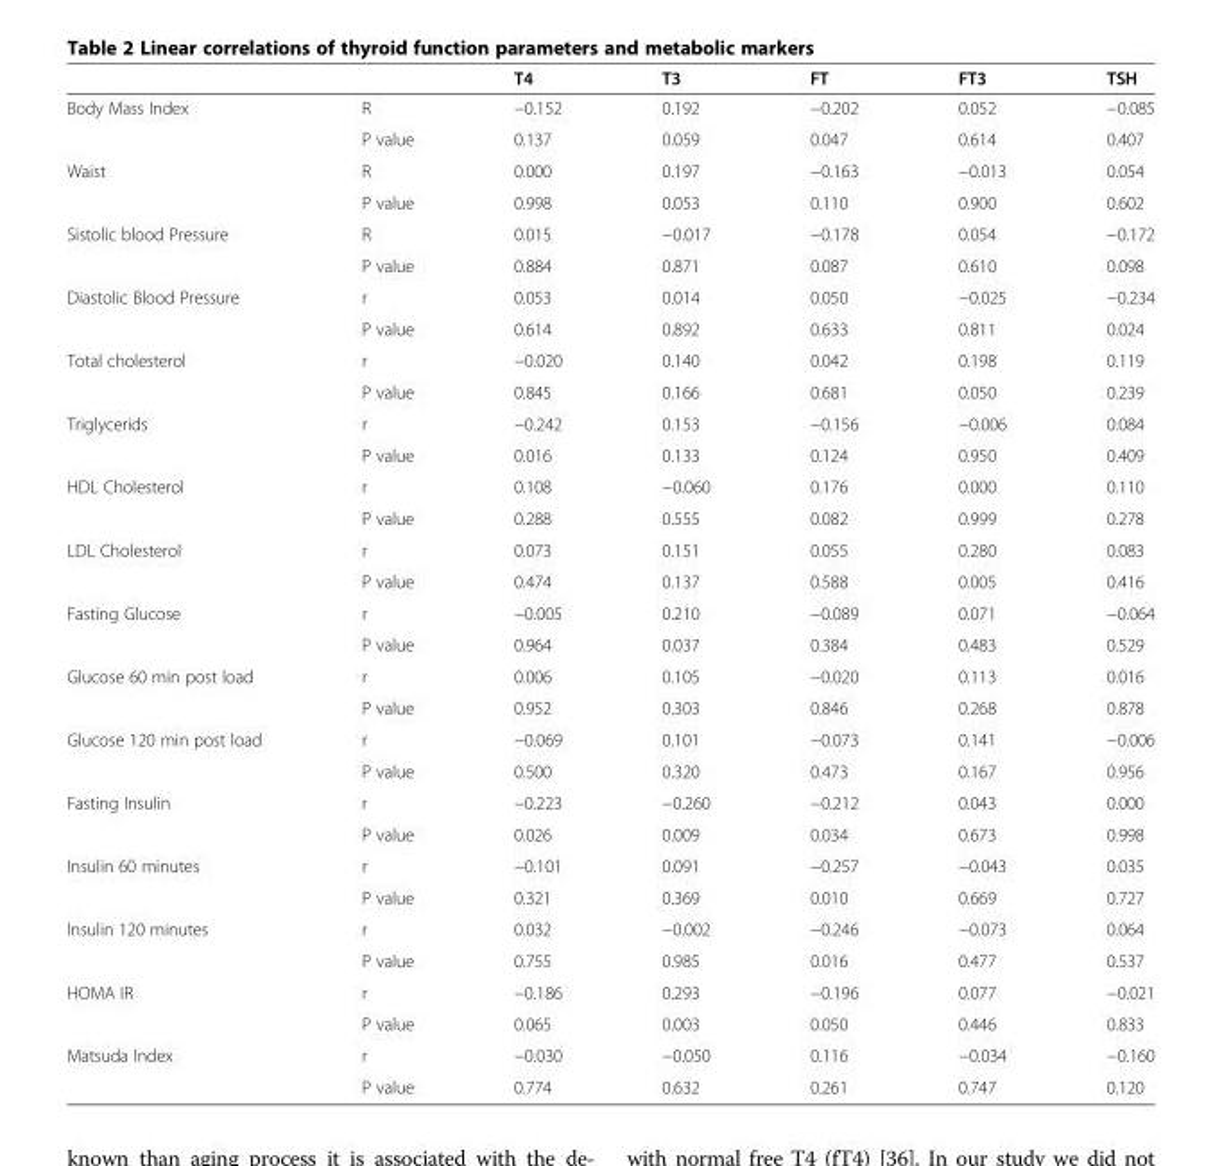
<table><thead><tr><td></td><td></td><td>T4</td><td>T3</td><td>FT</td><td>FT3</td><td>TSH</td></tr></thead><tbody><tr><td rowspan="2">Body Mass Index</td><td>R</td><td>−0.152</td><td>0.192</td><td>−0.202</td><td>0.052</td><td>−0.085</td></tr><tr><td>P value</td><td>0.137</td><td>0.059</td><td>0.047</td><td>0.614</td><td>0.407</td></tr><tr><td rowspan="2">Waist</td><td>R</td><td>0.000</td><td>0.197</td><td>−0.163</td><td>−0.013</td><td>0.054</td></tr><tr><td>P value</td><td>0.998</td><td>0.053</td><td>0.110</td><td>0.900</td><td>0.602</td></tr><tr><td rowspan="2">Sistolic blood Pressure</td><td>R</td><td>0.015</td><td>−0.017</td><td>−0.178</td><td>0.054</td><td>−0.172</td></tr><tr><td>P value</td><td>0.884</td><td>0.871</td><td>0.087</td><td>0.610</td><td>0.098</td></tr><tr><td rowspan="2">Diastolic Blood Pressure</td><td>r</td><td>0.053</td><td>0.014</td><td>0.050</td><td>−0.025</td><td>−0.234</td></tr><tr><td>P value</td><td>0.614</td><td>0.892</td><td>0.633</td><td>0.811</td><td>0.024</td></tr><tr><td rowspan="2">Total cholesterol</td><td>r</td><td>−0.020</td><td>0.140</td><td>0.042</td><td>0.198</td><td>0.119</td></tr><tr><td>P value</td><td>0.845</td><td>0.166</td><td>0.681</td><td>0.050</td><td>0.239</td></tr><tr><td rowspan="2">Triglycerids</td><td>r</td><td>−0.242</td><td>0.153</td><td>−0.156</td><td>−0.006</td><td>0.084</td></tr><tr><td>P value</td><td>0.016</td><td>0.133</td><td>0.124</td><td>0.950</td><td>0.409</td></tr><tr><td rowspan="2">HDL Cholesterol</td><td>r</td><td>0.108</td><td>−0.060</td><td>0.176</td><td>0.000</td><td>0.110</td></tr><tr><td>P value</td><td>0.288</td><td>0.555</td><td>0.082</td><td>0.999</td><td>0.278</td></tr><tr><td rowspan="2">LDL Cholesterol</td><td>r</td><td>0.073</td><td>0.151</td><td>0.055</td><td>0.280</td><td>0.083</td></tr><tr><td>P value</td><td>0.474</td><td>0.137</td><td>0.588</td><td>0.005</td><td>0.416</td></tr><tr><td rowspan="2">Fasting Glucose</td><td>r</td><td>−0.005</td><td>0.210</td><td>−0.089</td><td>0.071</td><td>−0.064</td></tr><tr><td>P value</td><td>0.964</td><td>0.037</td><td>0.384</td><td>0.483</td><td>0.529</td></tr><tr><td rowspan="2">Glucose 60 min post load</td><td>r</td><td>0.006</td><td>0.105</td><td>−0.020</td><td>0.113</td><td>0.016</td></tr><tr><td>P value</td><td>0.952</td><td>0.303</td><td>0.846</td><td>0.268</td><td>0.878</td></tr><tr><td rowspan="2">Glucose 120 min post load</td><td>r</td><td>−0.069</td><td>0.101</td><td>−0.073</td><td>0.141</td><td>−0.006</td></tr><tr><td>P value</td><td>0.500</td><td>0.320</td><td>0.473</td><td>0.167</td><td>0.956</td></tr><tr><td rowspan="2">Fasting Insulin</td><td>r</td><td>−0.223</td><td>−0.260</td><td>−0.212</td><td>0.043</td><td>0.000</td></tr><tr><td>P value</td><td>0.026</td><td>0.009</td><td>0.034</td><td>0.673</td><td>0.998</td></tr><tr><td rowspan="2">Insulin 60 minutes</td><td>r</td><td>−0.101</td><td>0.091</td><td>−0.257</td><td>−0.043</td><td>0.035</td></tr><tr><td>P value</td><td>0.321</td><td>0.369</td><td>0.010</td><td>0.669</td><td>0.727</td></tr><tr><td rowspan="2">Insulin 120 minutes</td><td>r</td><td>0.032</td><td>−0.002</td><td>−0.246</td><td>−0.073</td><td>0.064</td></tr><tr><td>P value</td><td>0.755</td><td>0.985</td><td>0.016</td><td>0.477</td><td>0.537</td></tr><tr><td rowspan="2">HOMA IR</td><td>r</td><td>−0.186</td><td>0.293</td><td>−0.196</td><td>0.077</td><td>−0.021</td></tr><tr><td>P value</td><td>0.065</td><td>0.003</td><td>0.050</td><td>0.446</td><td>0.833</td></tr><tr><td rowspan="2">Matsuda Index</td><td>r</td><td>−0.030</td><td>−0.050</td><td>0.116</td><td>−0.034</td><td>−0.160</td></tr><tr><td>P value</td><td>0.774</td><td>0.632</td><td>0.261</td><td>0.747</td><td>0.120</td></tr></tbody></table>